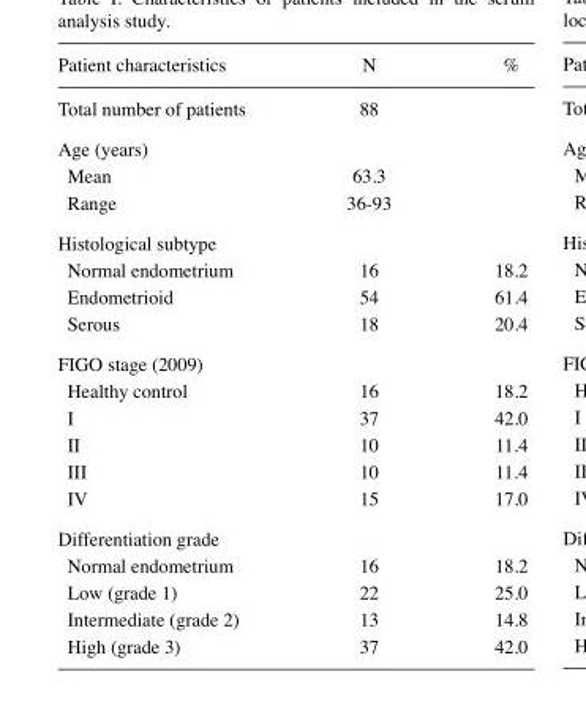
<table><thead><tr><td>Patient characteristics</td><td>N</td><td>%</td></tr></thead><tbody><tr><td>Total number of patients</td><td>88</td><td></td></tr><tr><td colspan="3">Age (years)</td></tr><tr><td>Mean</td><td>63.3</td><td></td></tr><tr><td>Range</td><td>36-93</td><td></td></tr><tr><td colspan="3">Histological subtype</td></tr><tr><td>Normal endometrium</td><td>16</td><td>18.2</td></tr><tr><td>Endometrioid</td><td>54</td><td>61.4</td></tr><tr><td>Serous</td><td>18</td><td>20.4</td></tr><tr><td colspan="3">FIGO stage (2009)</td></tr><tr><td>Healthy control</td><td>16</td><td>18.2</td></tr><tr><td>I</td><td>37</td><td>42.0</td></tr><tr><td>II</td><td>10</td><td>11.4</td></tr><tr><td>III</td><td>10</td><td>11.4</td></tr><tr><td>IV</td><td>15</td><td>17.0</td></tr><tr><td colspan="3">Differentiation grade</td></tr><tr><td>Normal endometrium</td><td>16</td><td>18.2</td></tr><tr><td>Low (grade 1)</td><td>22</td><td>25.0</td></tr><tr><td>Intermediate (grade 2)</td><td>13</td><td>14.8</td></tr><tr><td>High (grade 3)</td><td>37</td><td>42.0</td></tr></tbody></table>